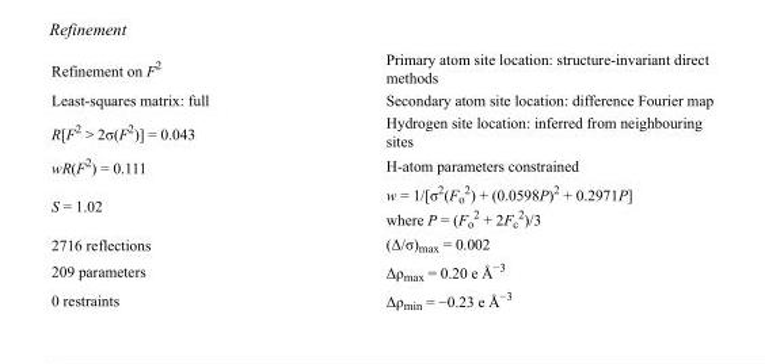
<table><tbody><tr><td>Refinement on F<sup>2</sup></td><td>Primary atom site location: structure-invariant direct methods</td></tr><tr><td>Least-squares matrix: full</td><td>Secondary atom site location: difference Fourier map</td></tr><tr><td>R[F<sup>2</sup> &gt; 2σ(F<sup>2</sup>)] = 0.043</td><td>Hydrogen site location: inferred from neighbouring sites</td></tr><tr><td>wR(F<sup>2</sup>) = 0.111</td><td>H-atom parameters constrained</td></tr><tr><td>S = 1.02</td><td>w = 1/[σ<sup>2</sup>(F<sub>o</sub> <sup>2</sup>) + (0.0598P)<sup>2</sup> + 0.2971P] where P = (F<sub>o</sub> <sup>2</sup> + 2F<sub>c</sub> <sup>2</sup>)/3</td></tr><tr><td>2716 reflections</td><td>(Δ/σ)<sub>max</sub> = 0.002</td></tr><tr><td>209 parameters</td><td>Δρ<sub>max</sub> = 0.20 e Å<sup>−3</sup></td></tr><tr><td>0 restraints</td><td>Δρ<sub>min</sub> = −0.23 e Å<sup>−3</sup></td></tr></tbody></table>